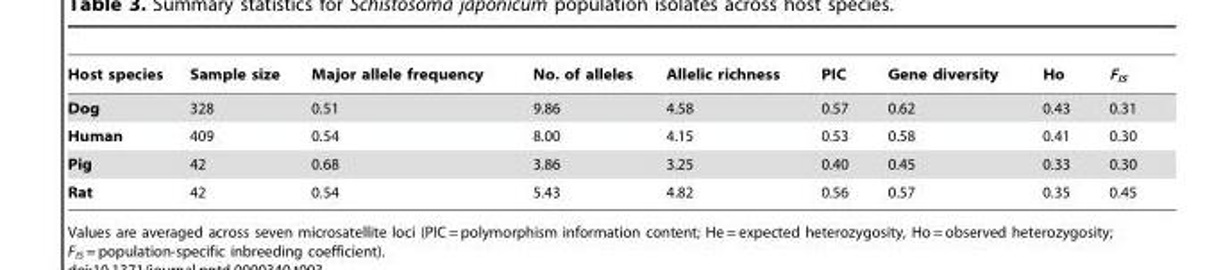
<table><thead><tr><td>Host species</td><td>Sample size</td><td>Major allele frequency</td><td>No. of alleles</td><td>Allelic richness</td><td>PIC</td><td>Gene diversity</td><td>Ho</td><td>F<sub>IS</sub></td></tr></thead><tbody><tr><td>Dog</td><td>328</td><td>0.51</td><td>9.86</td><td>4.58</td><td>0.57</td><td>0.62</td><td>0.43</td><td>0.31</td></tr><tr><td>Human</td><td>409</td><td>0.54</td><td>8.00</td><td>4.15</td><td>0.53</td><td>0.58</td><td>0.41</td><td>0.30</td></tr><tr><td>Pig</td><td>42</td><td>0.68</td><td>3.86</td><td>3.25</td><td>0.40</td><td>0.45</td><td>0.33</td><td>0.30</td></tr><tr><td>Rat</td><td>42</td><td>0.54</td><td>5.43</td><td>4.82</td><td>0.56</td><td>0.57</td><td>0.35</td><td>0.45</td></tr></tbody></table>